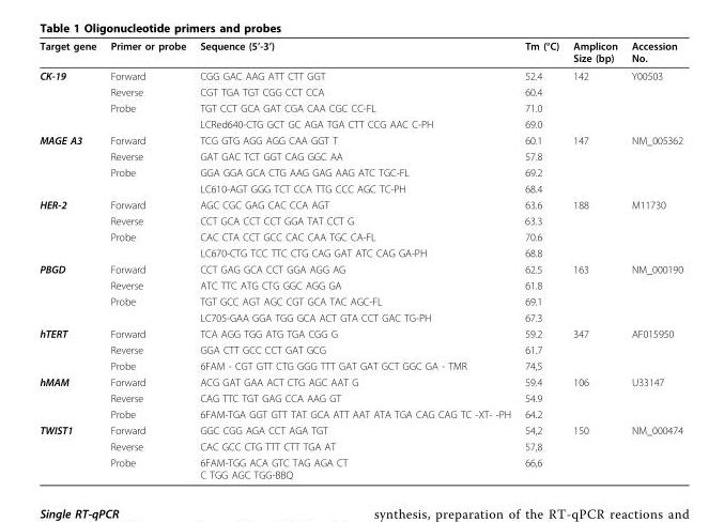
<table><thead><tr><td>Target gene</td><td>Primer or probe</td><td>Sequence (5’-3’)</td><td>Tm (°C)</td><td>Amplicon Size (bp)</td><td>Accession No.</td></tr></thead><tbody><tr><td rowspan="4">CK-19</td><td>Forward</td><td>CGG GAC AAG ATT CTT GGT</td><td>52.4</td><td>142</td><td>Y00503</td></tr><tr><td>Reverse</td><td>CGT TGA TGT CGG CCT CCA</td><td>60.4</td><td></td><td></td></tr><tr><td>Probe</td><td>TGT CCT GCA GAT CGA CAA CGC CC-FL</td><td>71.0</td><td></td><td></td></tr><tr><td></td><td>LCRed640-CTG GCT GC AGA TGA CTT CCG AAC C-PH</td><td>69.0</td><td></td><td></td></tr><tr><td rowspan="4">MAGE A3</td><td>Forward</td><td>TCG GTG AGG AGG CAA GGT T</td><td>60.1</td><td>147</td><td>NM_005362</td></tr><tr><td>Reverse</td><td>GAT GAC TCT GGT CAG GGC AA</td><td>57.8</td><td></td><td></td></tr><tr><td>Probe</td><td>GGA GGA GCA CTG AAG GAG AAG ATC TGC-FL</td><td>69.2</td><td></td><td></td></tr><tr><td></td><td>LC610-AGT GGG TCT CCA TTG CCC AGC TC-PH</td><td>68.4</td><td></td><td></td></tr><tr><td rowspan="4">HER-2</td><td>Forward</td><td>AGC CGC GAG CAC CCA AGT</td><td>63.6</td><td>188</td><td>M11730</td></tr><tr><td>Reverse</td><td>CCT GCA CCT CCT GGA TAT CCT G</td><td>63.3</td><td></td><td></td></tr><tr><td>Probe</td><td>CAC CTA CCT GCC CAC CAA TGC CA-FL</td><td>70.6</td><td></td><td></td></tr><tr><td></td><td>LC670-CTG TCC TTC CTG CAG GAT ATC CAG GA-PH</td><td>68.8</td><td></td><td></td></tr><tr><td rowspan="4">PBGD</td><td>Forward</td><td>CCT GAG GCA CCT GGA AGG AG</td><td>62.5</td><td>163</td><td>NM_000190</td></tr><tr><td>Reverse</td><td>ATC TTC ATG CTG GGC AGG GA</td><td>61.8</td><td></td><td></td></tr><tr><td>Probe</td><td>TGT GCC AGT AGC CGT GCA TAC AGC-FL</td><td>69.1</td><td></td><td></td></tr><tr><td></td><td>LC705-GAA GGA TGG GCA ACT GTA CCT GAC TG-PH</td><td>67.3</td><td></td><td></td></tr><tr><td rowspan="3">hTERT</td><td>Forward</td><td>TCA AGG TGG ATG TGA CGG G</td><td>59.2</td><td>347</td><td>AF015950</td></tr><tr><td>Reverse</td><td>GGA CTT GCC CCT GAT GCG</td><td>61.7</td><td></td><td></td></tr><tr><td>Probe</td><td>6FAM - CGT GTT CTG GGG TTT GAT GAT GCT GGC GA - TMR</td><td>74,5</td><td></td><td></td></tr><tr><td rowspan="3">hMAM</td><td>Forward</td><td>ACG GAT GAA ACT CTG AGC AAT G</td><td>59.4</td><td>106</td><td>U33147</td></tr><tr><td>Reverse</td><td>CAG TTC TGT GAG CCA AAG GT</td><td>54.9</td><td></td><td></td></tr><tr><td>Probe</td><td>6FAM-TGA GGT GTT TAT GCA ATT AAT ATA TGA CAG CAG TC -XT- -PH</td><td>64.2</td><td></td><td></td></tr><tr><td rowspan="3">TWIST1</td><td>Forward</td><td>GGC CGG AGA CCT AGA TGT</td><td>54,2</td><td>150</td><td>NM_000474</td></tr><tr><td>Reverse</td><td>CAC GCC CTG TTT CTT TGA AT</td><td>57,8</td><td></td><td></td></tr><tr><td>Probe</td><td>6FAM-TGG ACA GTC TAG AGA CT C TGG AGC TGG-BBQ</td><td>66,6</td><td></td><td></td></tr></tbody></table>